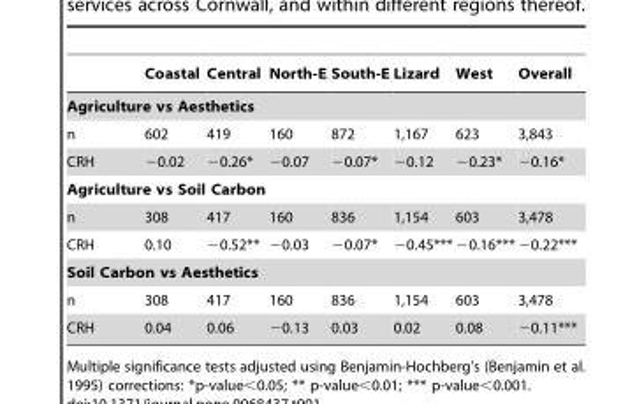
<table><thead><tr><td></td><td>Coastal</td><td>Central</td><td>North-E</td><td>South-E</td><td>Lizard</td><td>West</td><td>Overall</td></tr></thead><tbody><tr><td colspan="8">Agriculture vs Aesthetics</td></tr><tr><td>n</td><td>602</td><td>419</td><td>160</td><td>872</td><td>1,167</td><td>623</td><td>3,843</td></tr><tr><td>CRH</td><td>−0.02</td><td>−0.26*</td><td>−0.07</td><td>−0.07*</td><td>−0.12</td><td>−0.23*</td><td>−0.16*</td></tr><tr><td colspan="8">Agriculture vs Soil Carbon</td></tr><tr><td>n</td><td>308</td><td>417</td><td>160</td><td>836</td><td>1,154</td><td>603</td><td>3,478</td></tr><tr><td>CRH</td><td>0.10</td><td>−0.52**</td><td>−0.03</td><td>−0.07*</td><td>−0.45***</td><td>−0.16***</td><td>−0.22***</td></tr><tr><td colspan="8">Soil Carbon vs Aesthetics</td></tr><tr><td>n</td><td>308</td><td>417</td><td>160</td><td>836</td><td>1,154</td><td>603</td><td>3,478</td></tr><tr><td>CRH</td><td>0.04</td><td>0.06</td><td>−0.13</td><td>0.03</td><td>0.02</td><td>0.08</td><td>−0.11***</td></tr></tbody></table>